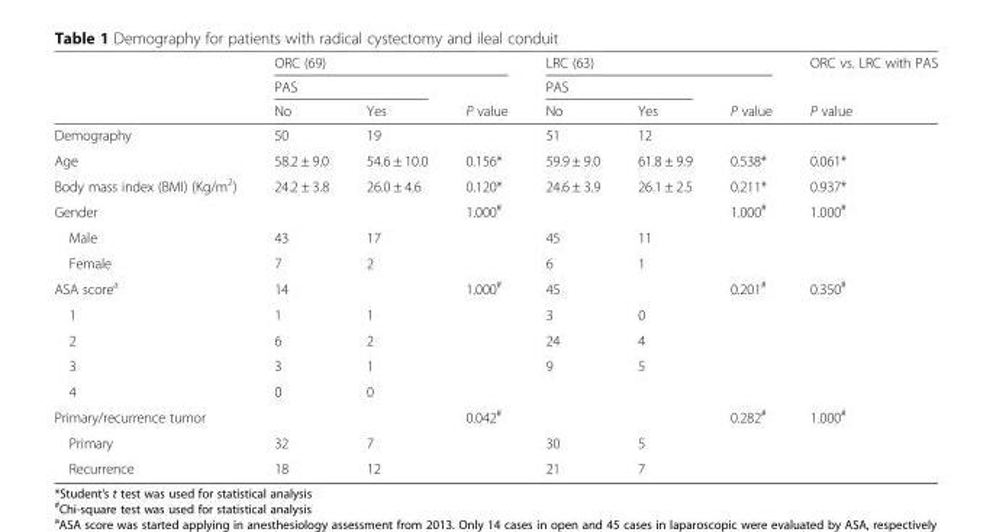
<table><thead><tr><td rowspan="3"></td><td colspan="3">ORC (69)</td><td colspan="3">LRC (63)</td><td rowspan="3">ORC vs. LRC with PAS P value</td></tr><tr><td colspan="2">PAS</td><td rowspan="2">P value</td><td colspan="2">PAS</td><td rowspan="2">P value</td></tr><tr><td>No</td><td>Yes</td><td>No</td><td>Yes</td></tr></thead><tbody><tr><td>Demography</td><td>50</td><td>19</td><td></td><td>51</td><td>12</td><td></td><td></td></tr><tr><td>Age</td><td>58.2 ± 9.0</td><td>54.6 ± 10.0</td><td>0.156*</td><td>59.9 ± 9.0</td><td>61.8 ± 9.9</td><td>0.538*</td><td>0.061*</td></tr><tr><td>Body mass index (BMI) (Kg/m<sup>2</sup>)</td><td>24.2 ± 3.8</td><td>26.0 ± 4.6</td><td>0.120*</td><td>24.6 ± 3.9</td><td>26.1 ± 2.5</td><td>0.211*</td><td>0.937*</td></tr><tr><td>Gender</td><td></td><td></td><td>1.000<sup>#</sup></td><td></td><td></td><td>1.000<sup>#</sup></td><td>1.000<sup>#</sup></td></tr><tr><td>Male</td><td>43</td><td>17</td><td></td><td>45</td><td>11</td><td></td><td></td></tr><tr><td>Female</td><td>7</td><td>2</td><td></td><td>6</td><td>1</td><td></td><td></td></tr><tr><td>ASA score<sup>a</sup></td><td>14</td><td></td><td>1.000<sup>#</sup></td><td>45</td><td></td><td>0.201<sup>#</sup></td><td>0.350<sup>#</sup></td></tr><tr><td>1</td><td>1</td><td>1</td><td></td><td>3</td><td>0</td><td></td><td></td></tr><tr><td>2</td><td>6</td><td>2</td><td></td><td>24</td><td>4</td><td></td><td></td></tr><tr><td>3</td><td>3</td><td>1</td><td></td><td>9</td><td>5</td><td></td><td></td></tr><tr><td>4</td><td>0</td><td>0</td><td></td><td></td><td></td><td></td><td></td></tr><tr><td>Primary/recurrence tumor</td><td></td><td></td><td>0.042<sup>#</sup></td><td></td><td></td><td>0.282<sup>#</sup></td><td>1.000<sup>#</sup></td></tr><tr><td>Primary</td><td>32</td><td>7</td><td></td><td>30</td><td>5</td><td></td><td></td></tr><tr><td>Recurrence</td><td>18</td><td>12</td><td></td><td>21</td><td>7</td><td></td><td></td></tr></tbody></table>